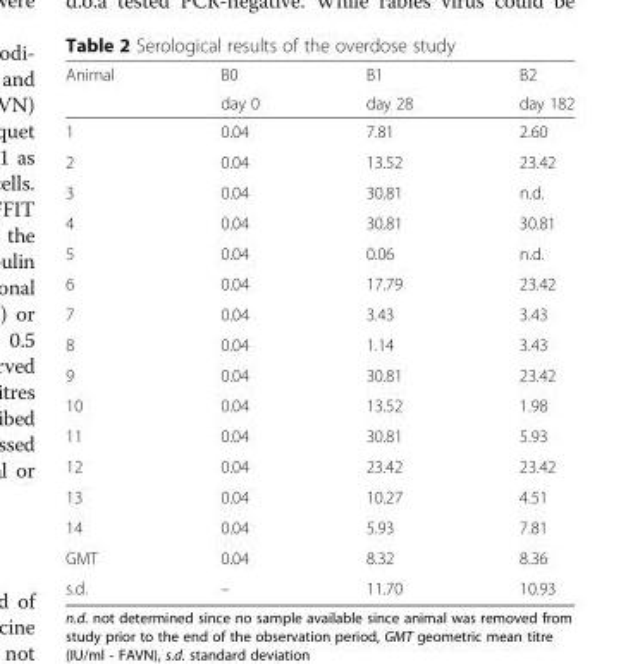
<table><thead><tr><td rowspan="2">Animal</td><td rowspan="2">B0 day 0</td><td rowspan="2">B1 day 28</td><td rowspan="2">B2 day 182</td></tr><tr></tr></thead><tbody><tr><td>1</td><td>0.04</td><td>7.81</td><td>2.60</td></tr><tr><td>2</td><td>0.04</td><td>13.52</td><td>23.42</td></tr><tr><td>3</td><td>0.04</td><td>30.81</td><td>n.d.</td></tr><tr><td>4</td><td>0.04</td><td>30.81</td><td>30.81</td></tr><tr><td>5</td><td>0.04</td><td>0.06</td><td>n.d.</td></tr><tr><td>6</td><td>0.04</td><td>17.79</td><td>23.42</td></tr><tr><td>7</td><td>0.04</td><td>3.43</td><td>3.43</td></tr><tr><td>8</td><td>0.04</td><td>1.14</td><td>3.43</td></tr><tr><td>9</td><td>0.04</td><td>30.81</td><td>23.42</td></tr><tr><td>10</td><td>0.04</td><td>13.52</td><td>1.98</td></tr><tr><td>11</td><td>0.04</td><td>30.81</td><td>5.93</td></tr><tr><td>12</td><td>0.04</td><td>23.42</td><td>23.42</td></tr><tr><td>13</td><td>0.04</td><td>10.27</td><td>4.51</td></tr><tr><td>14</td><td>0.04</td><td>5.93</td><td>7.81</td></tr><tr><td>GMT</td><td>0.04</td><td>8.32</td><td>8.36</td></tr><tr><td>s.d.</td><td>–</td><td>11.70</td><td>10.93</td></tr></tbody></table>